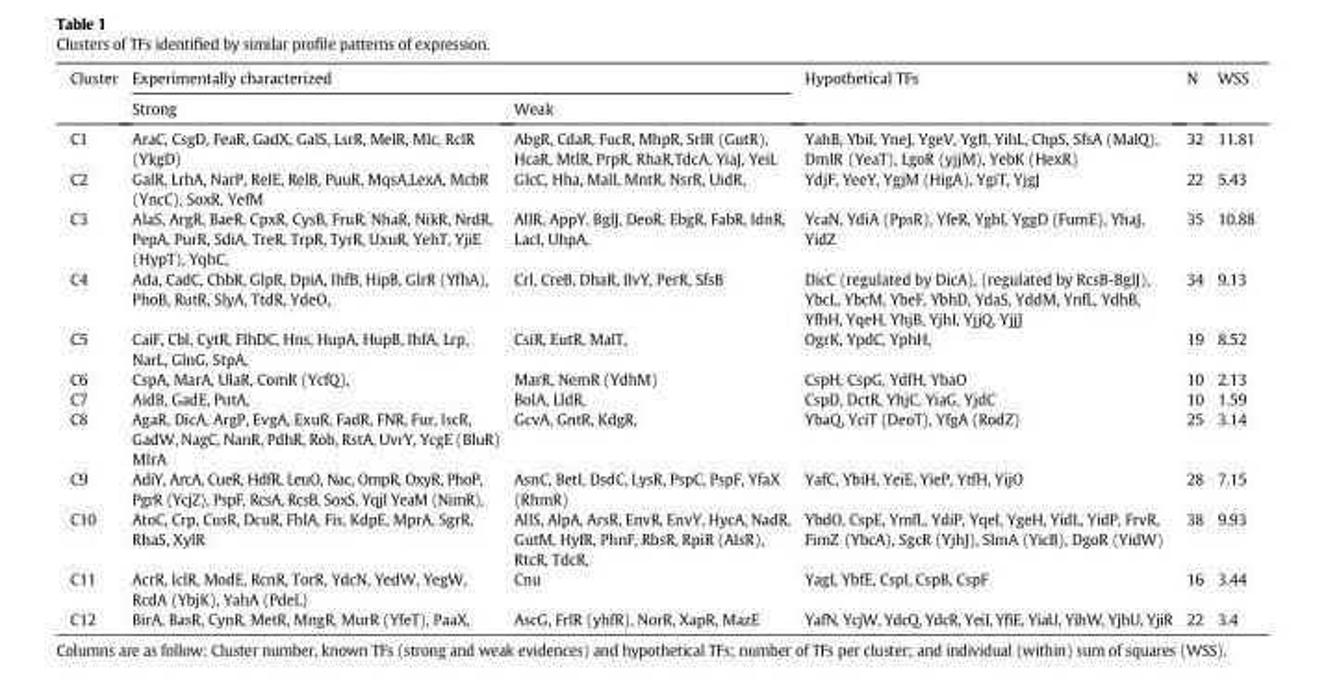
<table><thead><tr><td rowspan="2">Cluster</td><td colspan="2">Experimentally characterized</td><td rowspan="2">Hypothetical TFs</td><td rowspan="2">N</td><td rowspan="2">WSS</td></tr><tr><td>Strong</td><td>Weak</td></tr></thead><tbody><tr><td>C1</td><td>AraC, CsgD, FeaR, GadX, GalS, LsrR, MelR, Mlc, RclR (YkgD)</td><td>AbgR, CdaR, FucR, MhpR, SrlR (GutR), HcaR, MtlR, PrpR, RhaR,TdcA, YiaJ, YeiL</td><td>YahB, YbiI, YneJ, YgeV, YgfI, YihL, ChpS, SfsA (MalQ), DmlR (YeaT), LgoR (yjjM), YebK (HexR)</td><td>32</td><td>11.81</td></tr><tr><td>C2</td><td>GalR, LrhA, NarP, RelE, RelB, PuuR, MqsA,LexA, McbR (YncC), SoxR, YefM</td><td>GlcC, Hha, MalI, MntR, NsrR, UidR,</td><td>YdjF, YeeY, YgjM (HigA), YgiT, YjgJ</td><td>22</td><td>5.43</td></tr><tr><td>C3</td><td>AlaS, ArgR, BaeR, CpxR, CysB, FruR, NhaR, NikR, NrdR, PepA, PurR, SdiA, TreR, TrpR, TyrR, UxuR, YehT, YjiE (HypT), YqhC,</td><td>AllR, AppY, BglJ, DeoR, EbgR, FabR, IdnR, LacI, UhpA,</td><td>YcaN, YdiA (PpsR), YfeR, YgbI, YggD (FumE), YhaJ, YidZ</td><td>35</td><td>10.88</td></tr><tr><td>C4</td><td>Ada, CadC, ChbR, GlpR, DpiA, IhfB, HipB, GlrR (YfhA), PhoB, RutR, SlyA, TtdR, YdeO,</td><td>Crl, CreB, DhaR, IlvY, PerR, SfsB</td><td>DicC (regulated by DicA), (regulated by RcsB-BglJ), YbcL, YbcM, YbeF, YbhD, YdaS, YddM, YnfL, YdhB, YfhH, YqeH, YhjB, YjhI, YjjQ, YjjJ</td><td>34</td><td>9.13</td></tr><tr><td>C5</td><td>CaiF, Cbl, CytR, FlhDC, Hns, HupA, HupB, IhfA, Lrp, NarL, GlnG, StpA,</td><td>CsiR, EutR, MalT,</td><td>OgrK, YpdC, YphH,</td><td>19</td><td>8.52</td></tr><tr><td>C6</td><td>CspA, MarA, UlaR, ComR (YcfQ),</td><td>MarR, NemR (YdhM)</td><td>CspH, CspG, YdfH, YbaO</td><td>10</td><td>2.13</td></tr><tr><td>C7</td><td>AidB, GadE, PutA,</td><td>BolA, LldR,</td><td>CspD, DctR, YhjC, YiaG, YjdC</td><td>10</td><td>1.59</td></tr><tr><td>C8</td><td>AgaR, DicA, ArgP, EvgA, ExuR, FadR, FNR, Fur, IscR, GadW, NagC, NanR, PdhR, Rob, RstA, UvrY, YcgE (BluR) MlrA</td><td>GcvA, GntR, KdgR,</td><td>YbaQ, YciT (DeoT), YfgA (RodZ)</td><td>25</td><td>3.14</td></tr><tr><td>C9</td><td>AdiY, ArcA, CueR, HdfR, LeuO, Nac, OmpR, OxyR, PhoP, PgrR (YcjZ), PspF, RcsA, RcsB, SoxS, YqjI YeaM (NimR),</td><td>AsnC, BetI, DsdC, LysR, PspC, PspF, YfaX (RhmR)</td><td>YafC, YbiH, YeiE, YieP, YtfH, YijO</td><td>28</td><td>7.15</td></tr><tr><td>C10</td><td>AtoC, Crp, CusR, DcuR, FhlA, Fis, KdpE, MprA, SgrR, RhaS, XylR</td><td>AllS, AlpA, ArsR, EnvR, EnvY, HycA, NadR, GutM, HyfR, PhnF, RbsR, RpiR (AlsR), RtcR, TdcR,</td><td>YbdO, CspE, YmfL, YdiP, YqeI, YgeH, YidL, YidP, FrvR, FimZ (YbcA), SgcR (YjhJ), SlmA (YicB), DgoR (YidW)</td><td>38</td><td>9.93</td></tr><tr><td>C11</td><td>AcrR, IclR, ModE, RcnR, TorR, YdcN, YedW, YegW, RcdA (YbjK), YahA (PdeL)</td><td>Cnu</td><td>YagI, YbfE, CspI, CspB, CspF</td><td>16</td><td>3.44</td></tr><tr><td>C12</td><td>BirA, BasR, CynR, MetR, MngR, MurR (YfeT), PaaX,</td><td>AscG, FrlR (yhfR), NorR, XapR, MazE</td><td>YafN, YcjW, YdcQ, YdcR, YeiI, YfiE, YiaU, YihW, YjhU, YjiR</td><td>22</td><td>3.4</td></tr></tbody></table>